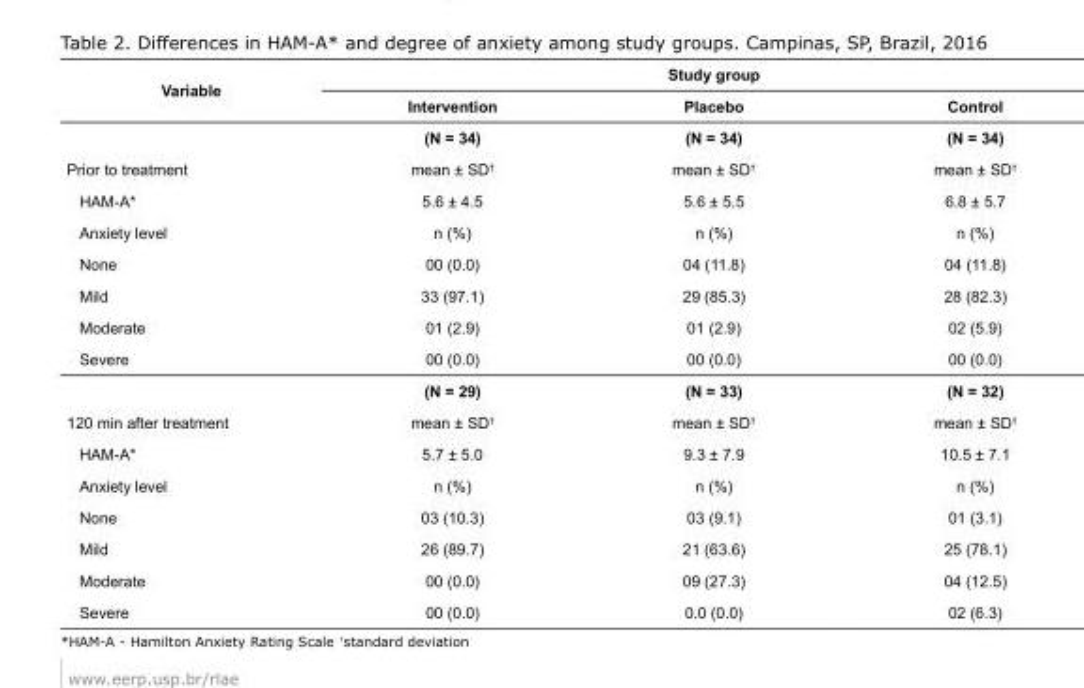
<table><tbody><tr><td rowspan="3">Variable</td><td colspan="3">Study group</td></tr><tr><td>Intervention</td><td>Placebo</td><td>Control</td></tr><tr><td>(N = 34)</td><td>(N = 34)</td><td>(N = 34)</td></tr><tr><td>Prior to treatment</td><td>mean ± SD<sup>†</sup></td><td>mean ± SD<sup>†</sup></td><td>mean ± SD<sup>†</sup></td></tr><tr><td>HAM-A*</td><td>5.6 ± 4.5</td><td>5.6 ± 5.5</td><td>6.8 ± 5.7</td></tr><tr><td>Anxiety level</td><td>n (%)</td><td>n (%)</td><td>n (%)</td></tr><tr><td>None</td><td>00 (0.0)</td><td>04 (11.8)</td><td>04 (11.8)</td></tr><tr><td>Mild</td><td>33 (97.1)</td><td>29 (85.3)</td><td>28 (82.3)</td></tr><tr><td>Moderate</td><td>01 (2.9)</td><td>01 (2.9)</td><td>02 (5.9)</td></tr><tr><td rowspan="2">Severe</td><td>00 (0.0)</td><td>00 (0.0)</td><td>00 (0.0)</td></tr><tr><td>(N = 29)</td><td>(N = 33)</td><td>(N = 32)</td></tr><tr><td>120 min after treatment</td><td>mean ± SD<sup>†</sup></td><td>mean ± SD<sup>†</sup></td><td>mean ± SD<sup>†</sup></td></tr><tr><td>HAM-A*</td><td>5.7 ± 5.0</td><td>9.3 ± 7.9</td><td>10.5 ± 7.1</td></tr><tr><td>Anxiety level</td><td>n (%)</td><td>n (%)</td><td>n (%)</td></tr><tr><td>None</td><td>03 (10.3)</td><td>03 (9.1)</td><td>01 (3.1)</td></tr><tr><td>Mild</td><td>26 (89.7)</td><td>21 (63.6)</td><td>25 (78.1)</td></tr><tr><td>Moderate</td><td>00 (0.0)</td><td>09 (27.3)</td><td>04 (12.5)</td></tr><tr><td>Severe</td><td>00 (0.0)</td><td>0.0 (0.0)</td><td>02 (6.3)</td></tr></tbody></table>